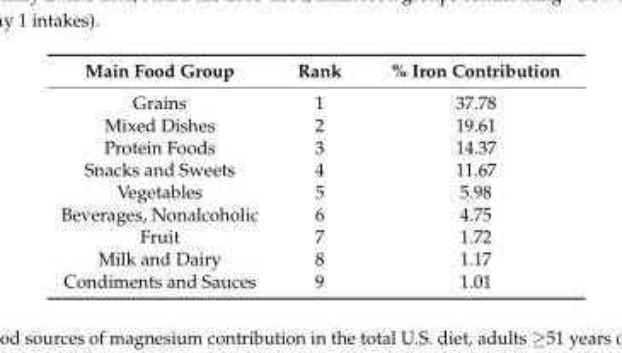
<table><thead><tr><td>Main Food Group</td><td>Rank</td><td>% Iron Contribution</td></tr></thead><tbody><tr><td>Grains</td><td>1</td><td>37.78</td></tr><tr><td>Mixed Dishes</td><td>2</td><td>19.61</td></tr><tr><td>Protein Foods</td><td>3</td><td>14.37</td></tr><tr><td>Snacks and Sweets</td><td>4</td><td>11.67</td></tr><tr><td>Vegetables</td><td>5</td><td>5.98</td></tr><tr><td>Beverages, Nonalcoholic</td><td>6</td><td>4.75</td></tr><tr><td>Fruit</td><td>7</td><td>1.72</td></tr><tr><td>Milk and Dairy</td><td>8</td><td>1.17</td></tr><tr><td>Condiments and Sauces</td><td>9</td><td>1.01</td></tr></tbody></table>